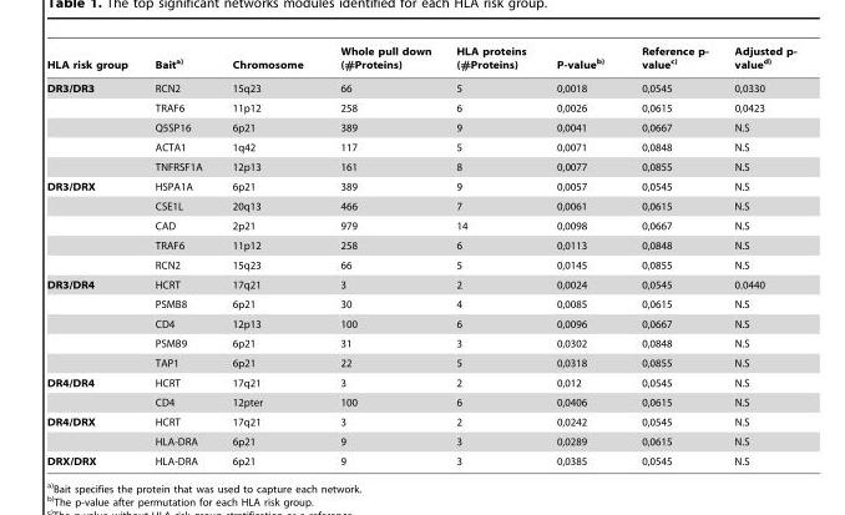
<table><thead><tr><td>HLA risk group</td><td>Baita)</td><td>Chromosome</td><td>Whole pull down (#Proteins)</td><td>HLA proteins (#Proteins)</td><td>P-valueb)</td><td>Reference p- valuec)</td><td>Adjusted p- valued)</td></tr></thead><tbody><tr><td rowspan="5">DR3/DR3</td><td>RCN2</td><td>15q23</td><td>66</td><td>5</td><td>0,0018</td><td>0,0545</td><td>0,0330</td></tr><tr><td>TRAF6</td><td>11p12</td><td>258</td><td>6</td><td>0,0026</td><td>0,0615</td><td>0,0423</td></tr><tr><td>Q5SP16</td><td>6p21</td><td>389</td><td>9</td><td>0,0041</td><td>0,0667</td><td>N.S</td></tr><tr><td>ACTA1</td><td>1q42</td><td>117</td><td>5</td><td>0,0071</td><td>0,0848</td><td>N.S</td></tr><tr><td>TNFRSF1A</td><td>12p13</td><td>161</td><td>8</td><td>0,0077</td><td>0,0855</td><td>N.S</td></tr><tr><td rowspan="5">DR3/DRX</td><td>HSPA1A</td><td>6p21</td><td>389</td><td>9</td><td>0,0057</td><td>0,0545</td><td>N.S</td></tr><tr><td>CSE1L</td><td>20q13</td><td>466</td><td>7</td><td>0,0061</td><td>0,0615</td><td>N.S</td></tr><tr><td>CAD</td><td>2p21</td><td>979</td><td>14</td><td>0,0098</td><td>0,0667</td><td>N.S</td></tr><tr><td>TRAF6</td><td>11p12</td><td>258</td><td>6</td><td>0,0113</td><td>0,0848</td><td>N.S</td></tr><tr><td>RCN2</td><td>15q23</td><td>66</td><td>5</td><td>0,0145</td><td>0,0855</td><td>N.S</td></tr><tr><td rowspan="5">DR3/DR4</td><td>HCRT</td><td>17q21</td><td>3</td><td>2</td><td>0,0024</td><td>0,0545</td><td>0.0440</td></tr><tr><td>PSMB8</td><td>6p21</td><td>30</td><td>4</td><td>0,0085</td><td>0,0615</td><td>N.S</td></tr><tr><td>CD4</td><td>12p13</td><td>100</td><td>6</td><td>0,0096</td><td>0,0667</td><td>N.S</td></tr><tr><td>PSMB9</td><td>6p21</td><td>31</td><td>3</td><td>0,0302</td><td>0,0848</td><td>N.S</td></tr><tr><td>TAP1</td><td>6p21</td><td>22</td><td>5</td><td>0,0318</td><td>0,0855</td><td>N.S</td></tr><tr><td rowspan="2">DR4/DR4</td><td>HCRT</td><td>17q21</td><td>3</td><td>2</td><td>0,012</td><td>0,0545</td><td>N.S</td></tr><tr><td>CD4</td><td>12pter</td><td>100</td><td>6</td><td>0,0406</td><td>0,0615</td><td>N.S</td></tr><tr><td rowspan="2">DR4/DRX</td><td>HCRT</td><td>17q21</td><td>3</td><td>2</td><td>0,0242</td><td>0,0545</td><td>N.S</td></tr><tr><td>HLA-DRA</td><td>6p21</td><td>9</td><td>3</td><td>0,0289</td><td>0,0615</td><td>N.S</td></tr><tr><td>DRX/DRX</td><td>HLA-DRA</td><td>6p21</td><td>9</td><td>3</td><td>0,0385</td><td>0,0545</td><td>N.S</td></tr></tbody></table>